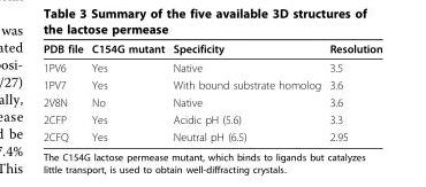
<table><thead><tr><td>PDB file</td><td>C154G mutant</td><td>Specificity</td><td>Resolution</td></tr></thead><tbody><tr><td>1PV6</td><td>Yes</td><td>Native</td><td>3.5</td></tr><tr><td>1PV7</td><td>Yes</td><td>With bound substrate homolog</td><td>3.6</td></tr><tr><td>2V8N</td><td>No</td><td>Native</td><td>3.6</td></tr><tr><td>2CFP</td><td>Yes</td><td>Acidic pH (5.6)</td><td>3.3</td></tr><tr><td>2CFQ</td><td>Yes</td><td>Neutral pH (6.5)</td><td>2.95</td></tr></tbody></table>